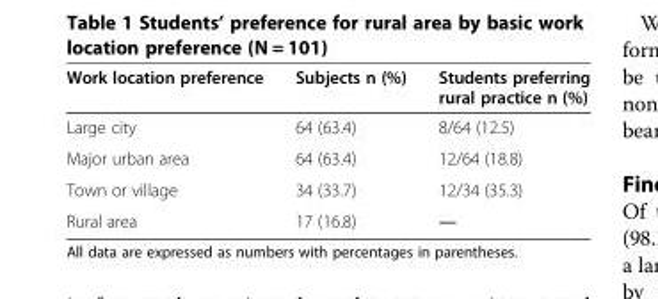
<table><thead><tr><td>Work location preference</td><td>Subjects n (%)</td><td>Students preferring rural practice n (%)</td></tr></thead><tbody><tr><td>Large city</td><td>64 (63.4)</td><td>8/64 (12.5)</td></tr><tr><td>Major urban area</td><td>64 (63.4)</td><td>12/64 (18.8)</td></tr><tr><td>Town or village</td><td>34 (33.7)</td><td>12/34 (35.3)</td></tr><tr><td>Rural area</td><td>17 (16.8)</td><td>―</td></tr></tbody></table>